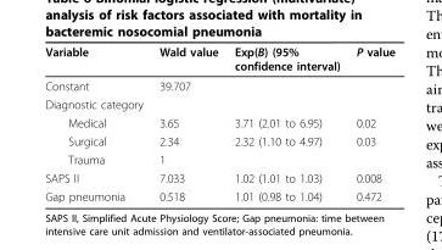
<table><thead><tr><td>Variable</td><td>Wald value</td><td>Exp(B) (95% confidence interval)</td><td>P value</td></tr></thead><tbody><tr><td>Constant</td><td>39.707</td><td></td><td></td></tr><tr><td colspan="4">Diagnostic category</td></tr><tr><td>Medical</td><td>3.65</td><td>3.71 (2.01 to 6.95)</td><td>0.02</td></tr><tr><td>Surgical</td><td>2.34</td><td>2.32 (1.10 to 4.97)</td><td>0.03</td></tr><tr><td>Trauma</td><td>1</td><td></td><td></td></tr><tr><td>SAPS II</td><td>7.033</td><td>1.02 (1.01 to 1.03)</td><td>0.008</td></tr><tr><td>Gap pneumonia</td><td>0.518</td><td>1.01 (0.98 to 1.04)</td><td>0.472</td></tr></tbody></table>